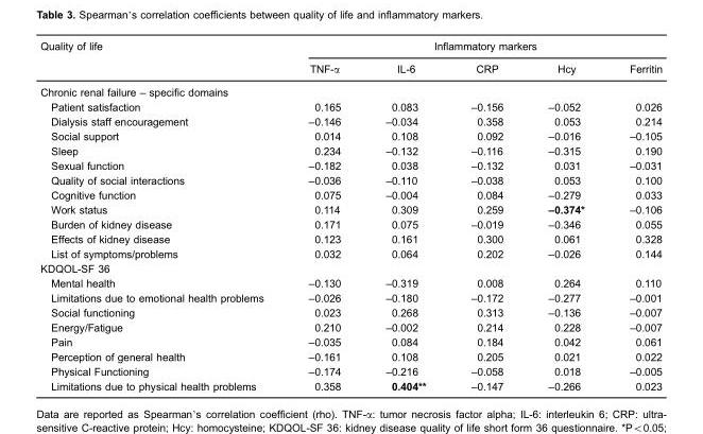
<table><thead><tr><td rowspan="2">Quality of life</td><td colspan="5">Inflammatory markers</td></tr><tr><td>TNF-α</td><td>IL-6</td><td>CRP</td><td>Hcy</td><td>Ferritin</td></tr></thead><tbody><tr><td colspan="6">Chronic renal failure – specific domains</td></tr><tr><td>Patient satisfaction</td><td>0.165</td><td>0.083</td><td>–0.156</td><td>–0.052</td><td>0.026</td></tr><tr><td>Dialysis staff encouragement</td><td>–0.146</td><td>–0.034</td><td>0.358</td><td>0.053</td><td>0.214</td></tr><tr><td>Social support</td><td>0.014</td><td>0.108</td><td>0.092</td><td>–0.016</td><td>–0.105</td></tr><tr><td>Sleep</td><td>0.234</td><td>–0.132</td><td>–0.116</td><td>–0.315</td><td>0.190</td></tr><tr><td>Sexual function</td><td>–0.182</td><td>0.038</td><td>–0.132</td><td>0.031</td><td>–0.031</td></tr><tr><td>Quality of social interactions</td><td>–0.036</td><td>–0.110</td><td>–0.038</td><td>0.053</td><td>0.100</td></tr><tr><td>Cognitive function</td><td>0.075</td><td>–0.004</td><td>0.084</td><td>–0.279</td><td>0.033</td></tr><tr><td>Work status</td><td>0.114</td><td>0.309</td><td>0.259</td><td>–0.374*</td><td>–0.106</td></tr><tr><td>Burden of kidney disease</td><td>0.171</td><td>0.075</td><td>–0.019</td><td>–0.346</td><td>0.055</td></tr><tr><td>Effects of kidney disease</td><td>0.123</td><td>0.161</td><td>0.300</td><td>0.061</td><td>0.328</td></tr><tr><td>List of symptoms/problems</td><td>0.032</td><td>0.064</td><td>0.202</td><td>–0.026</td><td>0.144</td></tr><tr><td colspan="6">KDQOL-SF 36</td></tr><tr><td>Mental health</td><td>–0.130</td><td>–0.319</td><td>0.008</td><td>0.264</td><td>0.110</td></tr><tr><td>Limitations due to emotional health problems</td><td>–0.026</td><td>–0.180</td><td>–0.172</td><td>–0.277</td><td>–0.001</td></tr><tr><td>Social functioning</td><td>0.023</td><td>0.268</td><td>0.313</td><td>–0.136</td><td>–0.007</td></tr><tr><td>Energy/Fatigue</td><td>0.210</td><td>–0.002</td><td>0.214</td><td>0.228</td><td>–0.007</td></tr><tr><td>Pain</td><td>–0.035</td><td>0.084</td><td>0.184</td><td>0.042</td><td>0.061</td></tr><tr><td>Perception of general health</td><td>–0.161</td><td>0.108</td><td>0.205</td><td>0.021</td><td>0.022</td></tr><tr><td>Physical Functioning</td><td>–0.174</td><td>–0.216</td><td>–0.058</td><td>0.018</td><td>–0.005</td></tr><tr><td>Limitations due to physical health problems</td><td>0.358</td><td>0.404**</td><td>–0.147</td><td>–0.266</td><td>0.023</td></tr></tbody></table>